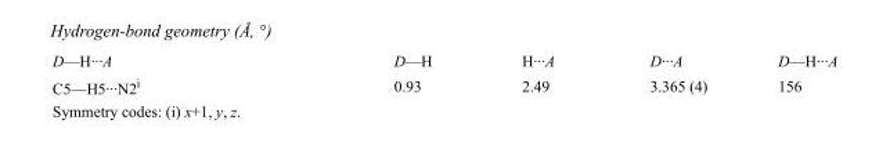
<table><tbody><tr><td>D—H···A</td><td>D—H</td><td>H···A</td><td>D···A</td><td>D—H···A</td></tr><tr><td>C5—H5···N2<sup>i</sup></td><td>0.93</td><td>2.49</td><td>3.365 (4)</td><td>156</td></tr></tbody></table>